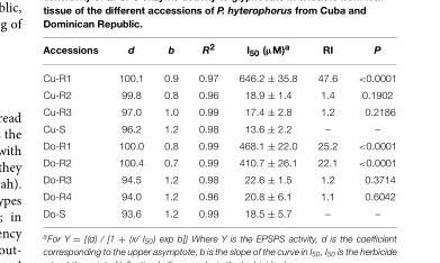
<table><thead><tr><td>Accessions</td><td>d</td><td>b</td><td>R<sup>2</sup></td><td>I<sub>50</sub> (µM)<sup>a</sup></td><td>RI</td><td>P</td></tr></thead><tbody><tr><td>Cu-R1</td><td>100.1</td><td>0.9</td><td>0.97</td><td>646.2 ± 35.8</td><td>47.6</td><td>&lt;0.0001</td></tr><tr><td>Cu-R2</td><td>99.8</td><td>0.8</td><td>0.96</td><td>18.9 ± 1.4</td><td>1.4</td><td>0.1902</td></tr><tr><td>Cu-R3</td><td>97.0</td><td>1.0</td><td>0.99</td><td>17.4 ± 2.8</td><td>1.2</td><td>0.2186</td></tr><tr><td>Cu-S</td><td>96.2</td><td>1.2</td><td>0.98</td><td>13.6 ± 2.2</td><td>–</td><td>–</td></tr><tr><td>Do-R1</td><td>100.0</td><td>0.8</td><td>0.99</td><td>468.1 ± 22.0</td><td>25.2</td><td>&lt;0.0001</td></tr><tr><td>Do-R2</td><td>100.4</td><td>0.7</td><td>0.99</td><td>410.7 ± 26.1</td><td>22.1</td><td>&lt;0.0001</td></tr><tr><td>Do-R3</td><td>94.5</td><td>1.2</td><td>0.98</td><td>22.6 ± 1.5</td><td>1.2</td><td>0.3714</td></tr><tr><td>Do-R4</td><td>94.0</td><td>1.2</td><td>0.96</td><td>20.8 ± 6.1</td><td>1.1</td><td>0.6042</td></tr><tr><td>Do-S</td><td>93.6</td><td>1.2</td><td>0.99</td><td>18.5 ± 5.7</td><td>–</td><td>–</td></tr></tbody></table>